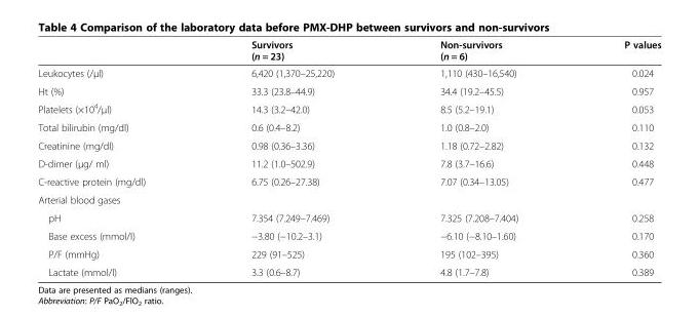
<table><thead><tr><td></td><td>Survivors (n = 23)</td><td>Non-survivors (n = 6)</td><td>P values</td></tr></thead><tbody><tr><td>Leukocytes (/μl)</td><td>6,420 (1,370–25,220)</td><td>1,110 (430–16,540)</td><td>0.024</td></tr><tr><td>Ht (%)</td><td>33.3 (23.8–44.9)</td><td>34.4 (19.2–45.5)</td><td>0.957</td></tr><tr><td>Platelets (×10<sup>4</sup>/μl)</td><td>14.3 (3.2–42.0)</td><td>8.5 (5.2–19.1)</td><td>0.053</td></tr><tr><td>Total bilirubin (mg/dl)</td><td>0.6 (0.4–8.2)</td><td>1.0 (0.8–2.0)</td><td>0.110</td></tr><tr><td>Creatinine (mg/dl)</td><td>0.98 (0.36–3.36)</td><td>1.18 (0.72–2.82)</td><td>0.132</td></tr><tr><td>D-dimer (μg/ ml)</td><td>11.2 (1.0–502.9)</td><td>7.8 (3.7–16.6)</td><td>0.448</td></tr><tr><td>C-reactive protein (mg/dl)</td><td>6.75 (0.26–27.38)</td><td>7.07 (0.34–13.05)</td><td>0.477</td></tr><tr><td colspan="4">Arterial blood gases</td></tr><tr><td>pH</td><td>7.354 (7.249–7.469)</td><td>7.325 (7.208–7.404)</td><td>0.258</td></tr><tr><td>Base excess (mmol/l)</td><td>−3.80 (−10.2–3.1)</td><td>−6.10 (−8.10–1.60)</td><td>0.170</td></tr><tr><td>P/F (mmHg)</td><td>229 (91–525)</td><td>195 (102–395)</td><td>0.360</td></tr><tr><td>Lactate (mmol/l)</td><td>3.3 (0.6–8.7)</td><td>4.8 (1.7–7.8)</td><td>0.389</td></tr></tbody></table>